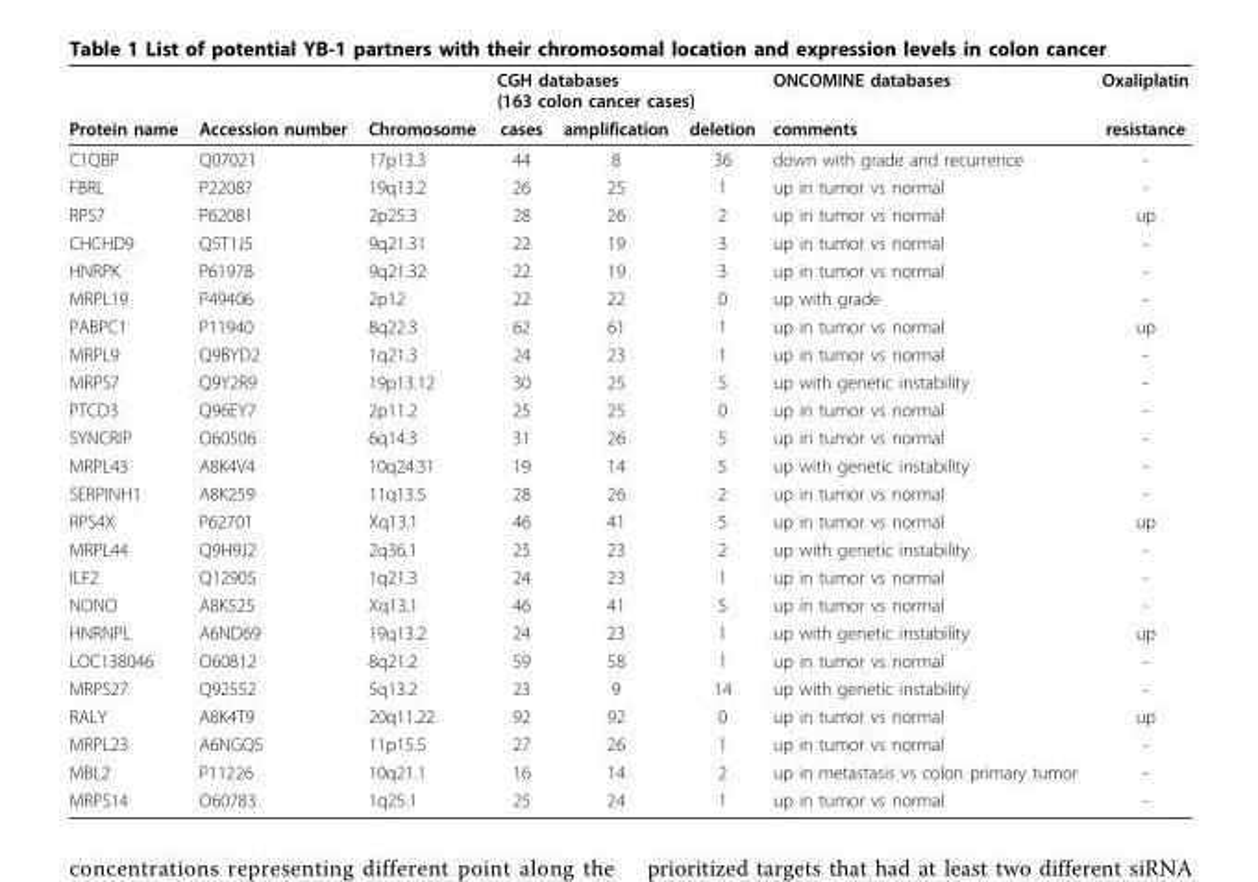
<table><thead><tr><td rowspan="2">Protein name</td><td rowspan="2">Accession number</td><td rowspan="2">Chromosome</td><td colspan="3">CGH databases (163 colon cancer cases)</td><td rowspan="2">ONCOMINE databases comments</td><td rowspan="2">Oxaliplatin resistance</td></tr><tr><td>cases</td><td>amplification</td><td>deletion</td></tr></thead><tbody><tr><td>C1QBP</td><td>Q07021</td><td>17p13.3</td><td>44</td><td>8</td><td>36</td><td>down with grade and recurrence</td><td>-</td></tr><tr><td>FBRL</td><td>P22087</td><td>19q13.2</td><td>26</td><td>25</td><td>1</td><td>up in tumor vs normal</td><td>-</td></tr><tr><td>RPS7</td><td>P62081</td><td>2p25.3</td><td>28</td><td>26</td><td>2</td><td>up in tumor vs normal</td><td>up</td></tr><tr><td>CHCHD9</td><td>Q5T1J5</td><td>9q21.31</td><td>22</td><td>19</td><td>3</td><td>up in tumor vs normal</td><td>-</td></tr><tr><td>HNRPK</td><td>P61978</td><td>9q21.32</td><td>22</td><td>19</td><td>3</td><td>up in tumor vs normal</td><td>-</td></tr><tr><td>MRPL19</td><td>P49406</td><td>2p12</td><td>22</td><td>22</td><td>0</td><td>up with grade</td><td>-</td></tr><tr><td>PABPC1</td><td>P11940</td><td>8q22.3</td><td>62</td><td>61</td><td>1</td><td>up in tumor vs normal</td><td>up</td></tr><tr><td>MRPL9</td><td>Q9BYD2</td><td>1q21.3</td><td>24</td><td>23</td><td>1</td><td>up in tumor vs normal</td><td>-</td></tr><tr><td>MRPS7</td><td>Q9Y2R9</td><td>19p13.12</td><td>30</td><td>25</td><td>5</td><td>up with genetic instability</td><td>-</td></tr><tr><td>PTCD3</td><td>Q96EY7</td><td>2p11.2</td><td>25</td><td>25</td><td>0</td><td>up in tumor vs normal</td><td>-</td></tr><tr><td>SYNCRIP</td><td>O60506</td><td>6q14.3</td><td>31</td><td>26</td><td>5</td><td>up in tumor vs normal</td><td>-</td></tr><tr><td>MRPL43</td><td>A8K4V4</td><td>10q24.31</td><td>19</td><td>14</td><td>5</td><td>up with genetic instability</td><td>-</td></tr><tr><td>SERPINH1</td><td>A8K259</td><td>11q13.5</td><td>28</td><td>26</td><td>2</td><td>up in tumor vs normal</td><td>-</td></tr><tr><td>RPS4X</td><td>P62701</td><td>Xq13.1</td><td>46</td><td>41</td><td>5</td><td>up in tumor vs normal</td><td>up</td></tr><tr><td>MRPL44</td><td>Q9H9J2</td><td>2q36.1</td><td>25</td><td>23</td><td>2</td><td>up with genetic instability</td><td>-</td></tr><tr><td>ILF2</td><td>Q12905</td><td>1q21.3</td><td>24</td><td>23</td><td>1</td><td>up in tumor vs normal</td><td>-</td></tr><tr><td>NONO</td><td>A8K525</td><td>Xq13.1</td><td>46</td><td>41</td><td>5</td><td>up in tumor vs normal</td><td>-</td></tr><tr><td>HNRNPL</td><td>A6ND69</td><td>19q13.2</td><td>24</td><td>23</td><td>1</td><td>up with genetic instability</td><td>up</td></tr><tr><td>LOC138046</td><td>O60812</td><td>8q21.2</td><td>59</td><td>58</td><td>1</td><td>up in tumor vs normal</td><td>-</td></tr><tr><td>MRPS27</td><td>Q92552</td><td>5q13.2</td><td>23</td><td>9</td><td>14</td><td>up with genetic instability</td><td>-</td></tr><tr><td>RALY</td><td>A8K4T9</td><td>20q11.22</td><td>92</td><td>92</td><td>0</td><td>up in tumor vs normal</td><td>up</td></tr><tr><td>MRPL23</td><td>A6NGQ5</td><td>11p15.5</td><td>27</td><td>26</td><td>1</td><td>up in tumor vs normal</td><td>-</td></tr><tr><td>MBL2</td><td>P11226</td><td>10q21.1</td><td>16</td><td>14</td><td>2</td><td>up in metastasis vs colon primary tumor</td><td>-</td></tr><tr><td>MRPS14</td><td>O60783</td><td>1q25.1</td><td>25</td><td>24</td><td>1</td><td>up in tumor vs normal</td><td>-</td></tr></tbody></table>